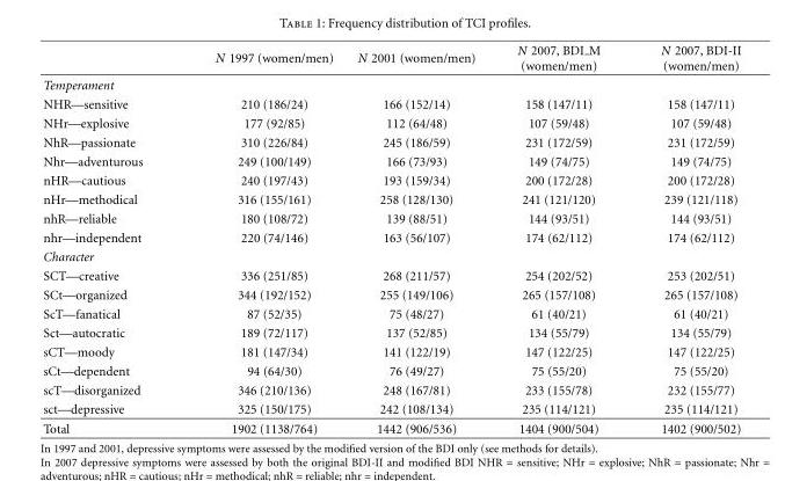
<table><thead><tr><td></td><td>N 1997 (women/men)</td><td>N 2001 (women/men)</td><td>N 2007, BDI M (women/men)</td><td>N 2007, BDI-II (women/men)</td></tr></thead><tbody><tr><td colspan="5">Temperament</td></tr><tr><td>NHR—sensitive</td><td>210 (186/24)</td><td>166 (152/14)</td><td>158 (147/11)</td><td>158 (147/11)</td></tr><tr><td>NHr—explosive</td><td>177 (92/85)</td><td>112 (64/48)</td><td>107 (59/48)</td><td>107 (59/48)</td></tr><tr><td>NhR—passionate</td><td>310 (226/84)</td><td>245 (186/59)</td><td>231 (172/59)</td><td>231 (172/59)</td></tr><tr><td>Nhr—adventurous</td><td>249 (100/149)</td><td>166 (73/93)</td><td>149 (74/75)</td><td>149 (74/75)</td></tr><tr><td>nHR—cautious</td><td>240 (197/43)</td><td>193 (159/34)</td><td>200 (172/28)</td><td>200 (172/28)</td></tr><tr><td>nHr—methodical</td><td>316 (155/161)</td><td>258 (128/130)</td><td>241 (121/120)</td><td>239 (121/118)</td></tr><tr><td>nhR—reliable</td><td>180 (108/72)</td><td>139 (88/51)</td><td>144 (93/51)</td><td>144 (93/51)</td></tr><tr><td>nhr—independent</td><td>220 (74/146)</td><td>163 (56/107)</td><td>174 (62/112)</td><td>174 (62/112)</td></tr><tr><td colspan="5">Character</td></tr><tr><td>SCT—creative</td><td>336 (251/85)</td><td>268 (211/57)</td><td>254 (202/52)</td><td>253 (202/51)</td></tr><tr><td>SCt—organized</td><td>344 (192/152)</td><td>255 (149/106)</td><td>265 (157/108)</td><td>265 (157/108)</td></tr><tr><td>ScT—fanatical</td><td>87 (52/35)</td><td>75 (48/27)</td><td>61 (40/21)</td><td>61 (40/21)</td></tr><tr><td>Sct—autocratic</td><td>189 (72/117)</td><td>137 (52/85)</td><td>134 (55/79)</td><td>134 (55/79)</td></tr><tr><td>sCT—moody</td><td>181 (147/34)</td><td>141 (122/19)</td><td>147 (122/25)</td><td>147 (122/25)</td></tr><tr><td>sCt—dependent</td><td>94 (64/30)</td><td>76 (49/27)</td><td>75 (55/20)</td><td>75 (55/20)</td></tr><tr><td>scT—disorganized</td><td>346 (210/136)</td><td>248 (167/81)</td><td>233 (155/78)</td><td>232 (155/77)</td></tr><tr><td>sct—depressive</td><td>325 (150/175)</td><td>242 (108/134)</td><td>235 (114/121)</td><td>235 (114/121)</td></tr><tr><td>Total</td><td>1902 (1138/764)</td><td>1442 (906/536)</td><td>1404 (900/504)</td><td>1402 (900/502)</td></tr></tbody></table>